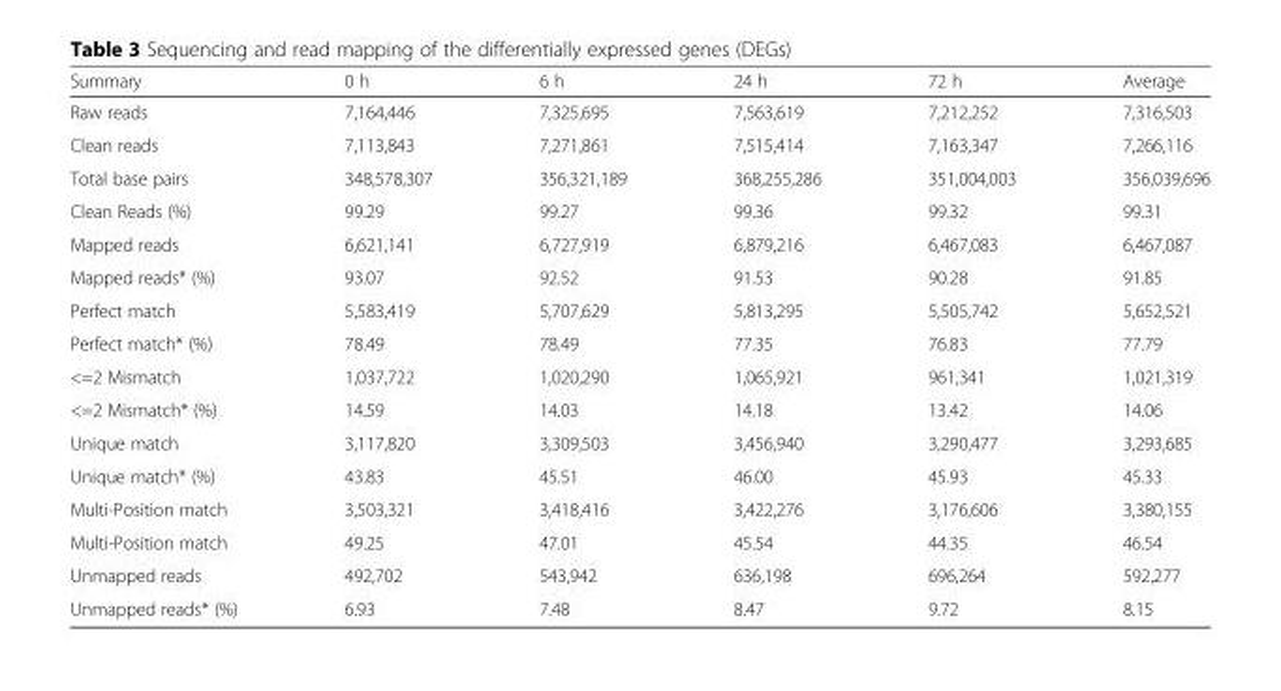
<table><thead><tr><td>Summary</td><td>0 h</td><td>6 h</td><td>24 h</td><td>72 h</td><td>Average</td></tr></thead><tbody><tr><td>Raw reads</td><td>7,164,446</td><td>7,325,695</td><td>7,563,619</td><td>7,212,252</td><td>7,316,503</td></tr><tr><td>Clean reads</td><td>7,113,843</td><td>7,271,861</td><td>7,515,414</td><td>7,163,347</td><td>7,266,116</td></tr><tr><td>Total base pairs</td><td>348,578,307</td><td>356,321,189</td><td>368,255,286</td><td>351,004,003</td><td>356,039,696</td></tr><tr><td>Clean Reads (%)</td><td>99.29</td><td>99.27</td><td>99.36</td><td>99.32</td><td>99.31</td></tr><tr><td>Mapped reads</td><td>6,621,141</td><td>6,727,919</td><td>6,879,216</td><td>6,467,083</td><td>6,467,087</td></tr><tr><td>Mapped reads* (%)</td><td>93.07</td><td>92.52</td><td>91.53</td><td>90.28</td><td>91.85</td></tr><tr><td>Perfect match</td><td>5,583,419</td><td>5,707,629</td><td>5,813,295</td><td>5,505,742</td><td>5,652,521</td></tr><tr><td>Perfect match* (%)</td><td>78.49</td><td>78.49</td><td>77.35</td><td>76.83</td><td>77.79</td></tr><tr><td>&lt;=2 Mismatch</td><td>1,037,722</td><td>1,020,290</td><td>1,065,921</td><td>961,341</td><td>1,021,319</td></tr><tr><td>&lt;=2 Mismatch* (%)</td><td>14.59</td><td>14.03</td><td>14.18</td><td>13.42</td><td>14.06</td></tr><tr><td>Unique match</td><td>3,117,820</td><td>3,309,503</td><td>3,456,940</td><td>3,290,477</td><td>3,293,685</td></tr><tr><td>Unique match* (%)</td><td>43.83</td><td>45.51</td><td>46.00</td><td>45.93</td><td>45.33</td></tr><tr><td>Multi-Position match</td><td>3,503,321</td><td>3,418,416</td><td>3,422,276</td><td>3,176,606</td><td>3,380,155</td></tr><tr><td>Multi-Position match</td><td>49.25</td><td>47.01</td><td>45.54</td><td>44.35</td><td>46.54</td></tr><tr><td>Unmapped reads</td><td>492,702</td><td>543,942</td><td>636,198</td><td>696,264</td><td>592,277</td></tr><tr><td>Unmapped reads* (%)</td><td>6.93</td><td>7.48</td><td>8.47</td><td>9.72</td><td>8.15</td></tr></tbody></table>